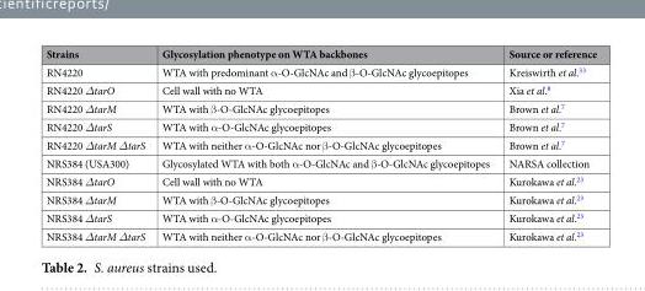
<table><thead><tr><td>Strains</td><td>Glycosylation phenotype on WTA backbones</td><td>Source or reference</td></tr></thead><tbody><tr><td>RN4220</td><td>WTA with predominant α-O-GlcNAc and β-O-GlcNAc glycoepitopes</td><td>Kreiswirth et al.<sup>33</sup></td></tr><tr><td>RN4220 ΔtarO</td><td>Cell wall with no WTA</td><td>Xia et al.<sup>8</sup></td></tr><tr><td>RN4220 ΔtarM</td><td>WTA with β-O-GlcNAc glycoepitopes</td><td>Brown et al.<sup>7</sup></td></tr><tr><td>RN4220 ΔtarS</td><td>WTA with α-O-GlcNAc glycoepitopes</td><td>Brown et al.<sup>7</sup></td></tr><tr><td>RN4220 ΔtarM ΔtarS</td><td>WTA with neither α-O-GlcNAc nor β-O-GlcNAc glycoepitopes</td><td>Brown et al.<sup>7</sup></td></tr><tr><td>NRS384 (USA300)</td><td>Glycosylated WTA with both α-O-GlcNAc and β-O-GlcNAc glycoepitopes</td><td>NARSA collection</td></tr><tr><td>NRS384 ΔtarO</td><td>Cell wall with no WTA</td><td>Kurokawa et al.<sup>23</sup></td></tr><tr><td>NRS384 ΔtarM</td><td>WTA with β-O-GlcNAc glycoepitopes</td><td>Kurokawa et al.<sup>23</sup></td></tr><tr><td>NRS384 ΔtarS</td><td>WTA with α-O-GlcNAc glycoepitopes</td><td>Kurokawa et al.<sup>23</sup></td></tr><tr><td>NRS384 ΔtarM ΔtarS</td><td>WTA with neither α-O-GlcNAc nor β-O-GlcNAc glycoepitopes</td><td>Kurokawa et al.<sup>23</sup></td></tr></tbody></table>